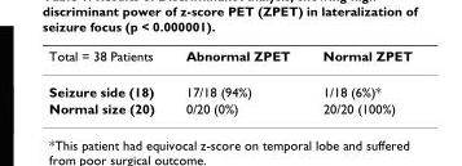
<table><thead><tr><td>Total = 38 Patients</td><td>Abnormal ZPET</td><td>Normal ZPET</td></tr></thead><tbody><tr><td>Seizure side (18)</td><td>17/18 (94%)</td><td>1/18 (6%)*</td></tr><tr><td>Normal size (20)</td><td>0/20 (0%)</td><td>20/20 (100%)</td></tr></tbody></table>